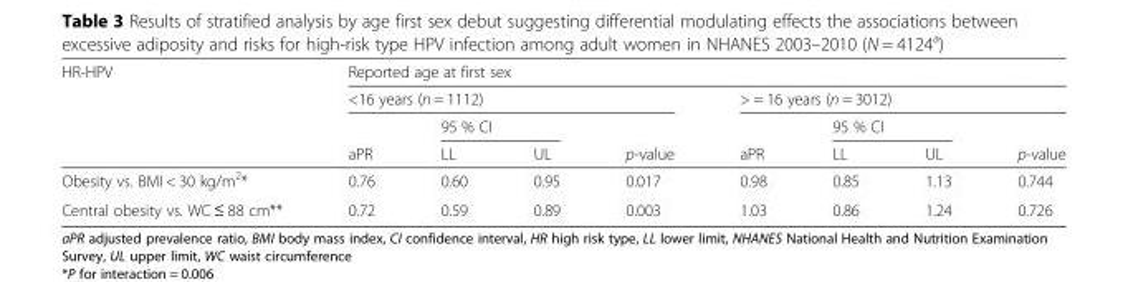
<table><thead><tr><td rowspan="4">HR-HPV</td><td rowspan="2" colspan="4">Reported age at first sex &lt;16 years (n = 1112)</td><td></td><td></td><td></td><td></td></tr><tr><td colspan="4">&gt; = 16 years (n = 3012)</td></tr><tr><td rowspan="2">aPR</td><td colspan="2">95 % CI</td><td rowspan="2">p-value</td><td rowspan="2">aPR</td><td colspan="2">95 % CI</td><td rowspan="2">p-value</td></tr><tr><td>LL</td><td>UL</td><td>LL</td><td>UL</td></tr></thead><tbody><tr><td>Obesity vs. BMI &lt; 30 kg/m<sup>2</sup>*</td><td>0.76</td><td>0.60</td><td>0.95</td><td>0.017</td><td>0.98</td><td>0.85</td><td>1.13</td><td>0.744</td></tr><tr><td>Central obesity vs. WC ≤ 88 cm**</td><td>0.72</td><td>0.59</td><td>0.89</td><td>0.003</td><td>1.03</td><td>0.86</td><td>1.24</td><td>0.726</td></tr></tbody></table>